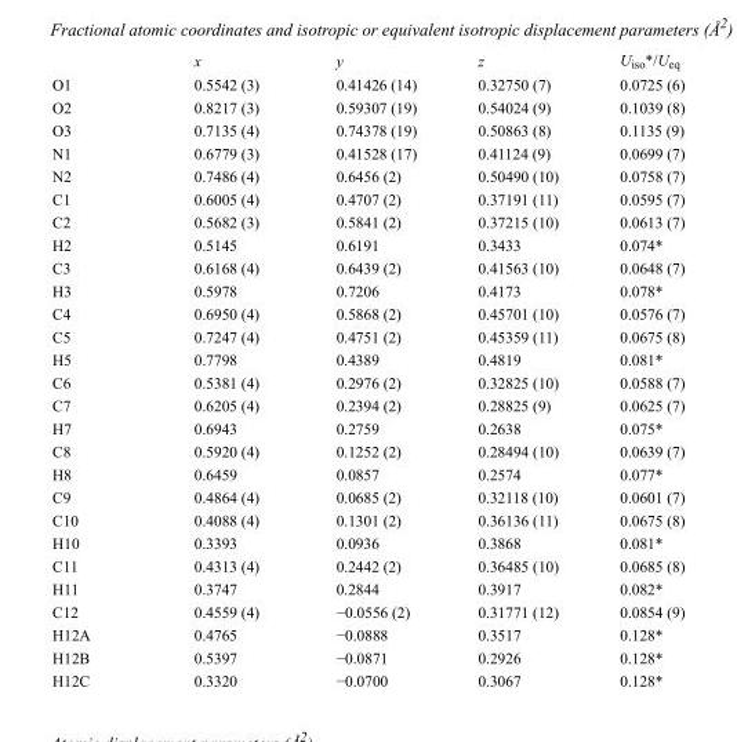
<table><thead><tr><td></td><td>x</td><td>y</td><td>z</td><td>U<sub>iso</sub>*/U<sub>eq</sub></td></tr></thead><tbody><tr><td>O1</td><td>0.5542 (3)</td><td>0.41426 (14)</td><td>0.32750 (7)</td><td>0.0725 (6)</td></tr><tr><td>O2</td><td>0.8217 (3)</td><td>0.59307 (19)</td><td>0.54024 (9)</td><td>0.1039 (8)</td></tr><tr><td>O3</td><td>0.7135 (4)</td><td>0.74378 (19)</td><td>0.50863 (8)</td><td>0.1135 (9)</td></tr><tr><td>N1</td><td>0.6779 (3)</td><td>0.41528 (17)</td><td>0.41124 (9)</td><td>0.0699 (7)</td></tr><tr><td>N2</td><td>0.7486 (4)</td><td>0.6456 (2)</td><td>0.50490 (10)</td><td>0.0758 (7)</td></tr><tr><td>C1</td><td>0.6005 (4)</td><td>0.4707 (2)</td><td>0.37191 (11)</td><td>0.0595 (7)</td></tr><tr><td>C2</td><td>0.5682 (3)</td><td>0.5841 (2)</td><td>0.37215 (10)</td><td>0.0613 (7)</td></tr><tr><td>H2</td><td>0.5145</td><td>0.6191</td><td>0.3433</td><td>0.074*</td></tr><tr><td>C3</td><td>0.6168 (4)</td><td>0.6439 (2)</td><td>0.41563 (10)</td><td>0.0648 (7)</td></tr><tr><td>H3</td><td>0.5978</td><td>0.7206</td><td>0.4173</td><td>0.078*</td></tr><tr><td>C4</td><td>0.6950 (4)</td><td>0.5868 (2)</td><td>0.45701 (10)</td><td>0.0576 (7)</td></tr><tr><td>C5</td><td>0.7247 (4)</td><td>0.4751 (2)</td><td>0.45359 (11)</td><td>0.0675 (8)</td></tr><tr><td>H5</td><td>0.7798</td><td>0.4389</td><td>0.4819</td><td>0.081*</td></tr><tr><td>C6</td><td>0.5381 (4)</td><td>0.2976 (2)</td><td>0.32825 (10)</td><td>0.0588 (7)</td></tr><tr><td>C7</td><td>0.6205 (4)</td><td>0.2394 (2)</td><td>0.28825 (9)</td><td>0.0625 (7)</td></tr><tr><td>H7</td><td>0.6943</td><td>0.2759</td><td>0.2638</td><td>0.075*</td></tr><tr><td>C8</td><td>0.5920 (4)</td><td>0.1252 (2)</td><td>0.28494 (10)</td><td>0.0639 (7)</td></tr><tr><td>H8</td><td>0.6459</td><td>0.0857</td><td>0.2574</td><td>0.077*</td></tr><tr><td>C9</td><td>0.4864 (4)</td><td>0.0685 (2)</td><td>0.32118 (10)</td><td>0.0601 (7)</td></tr><tr><td>C10</td><td>0.4088 (4)</td><td>0.1301 (2)</td><td>0.36136 (11)</td><td>0.0675 (8)</td></tr><tr><td>H10</td><td>0.3393</td><td>0.0936</td><td>0.3868</td><td>0.081*</td></tr><tr><td>C11</td><td>0.4313 (4)</td><td>0.2442 (2)</td><td>0.36485 (10)</td><td>0.0685 (8)</td></tr><tr><td>H11</td><td>0.3747</td><td>0.2844</td><td>0.3917</td><td>0.082*</td></tr><tr><td>C12</td><td>0.4559 (4)</td><td>−0.0556 (2)</td><td>0.31771 (12)</td><td>0.0854 (9)</td></tr><tr><td>H12A</td><td>0.4765</td><td>−0.0888</td><td>0.3517</td><td>0.128*</td></tr><tr><td>H12B</td><td>0.5397</td><td>−0.0871</td><td>0.2926</td><td>0.128*</td></tr><tr><td>H12C</td><td>0.3320</td><td>−0.0700</td><td>0.3067</td><td>0.128*</td></tr></tbody></table>